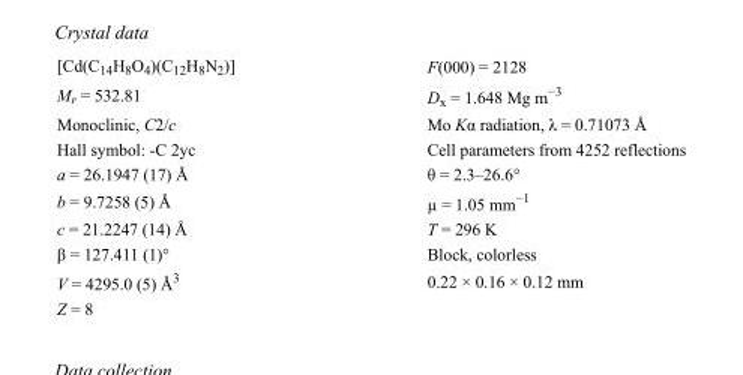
<table><tbody><tr><td>[Cd(C<sub>14</sub>H<sub>8</sub>O<sub>4</sub>)(C<sub>12</sub>H<sub>8</sub>N<sub>2</sub>)]</td><td>F(000) = 2128</td></tr><tr><td>M<sub>r</sub> = 532.81</td><td>D<sub>x</sub> = 1.648 Mg m<sup>−3</sup></td></tr><tr><td>Monoclinic, C2/c</td><td>Mo Kα radiation, λ = 0.71073 Å</td></tr><tr><td>Hall symbol: -C 2yc</td><td>Cell parameters from 4252 reflections</td></tr><tr><td>a = 26.1947 (17) Å</td><td>θ = 2.3–26.6°</td></tr><tr><td>b = 9.7258 (5) Å</td><td>µ = 1.05 mm<sup>−1</sup></td></tr><tr><td>c = 21.2247 (14) Å</td><td>T = 296 K</td></tr><tr><td>β = 127.411 (1)°</td><td>Block, colorless</td></tr><tr><td>V = 4295.0 (5) Å<sup>3</sup></td><td>0.22 × 0.16 × 0.12 mm</td></tr><tr><td>Z = 8</td><td></td></tr></tbody></table>